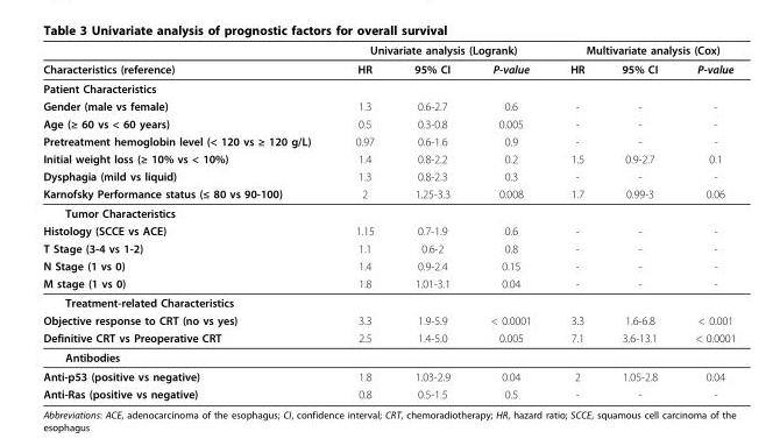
<table><thead><tr><td rowspan="2">Characteristics (reference)</td><td colspan="3">Univariate analysis (Logrank)</td><td colspan="3">Multivariate analysis (Cox)</td></tr><tr><td>HR</td><td>95% CI</td><td>P-value</td><td>HR</td><td>95% CI</td><td>P-value</td></tr></thead><tbody><tr><td colspan="7">Patient Characteristics</td></tr><tr><td>Gender (male vs female)</td><td>1.3</td><td>0.6-2.7</td><td>0.6</td><td>-</td><td>-</td><td>-</td></tr><tr><td>Age (≥ 60 vs &lt; 60 years)</td><td>0.5</td><td>0.3-0.8</td><td>0.005</td><td>-</td><td>-</td><td>-</td></tr><tr><td>Pretreatment hemoglobin level (&lt; 120 vs ≥ 120 g/L)</td><td>0.97</td><td>0.6-1.6</td><td>0.9</td><td>-</td><td>-</td><td>-</td></tr><tr><td>Initial weight loss (≥ 10% vs &lt; 10%)</td><td>1.4</td><td>0.8-2.2</td><td>0.2</td><td>1.5</td><td>0.9-2.7</td><td>0.1</td></tr><tr><td>Dysphagia (mild vs liquid)</td><td>1.3</td><td>0.8-2.3</td><td>0.3</td><td>-</td><td>-</td><td>-</td></tr><tr><td>Karnofsky Performance status (≤ 80 vs 90-100)</td><td>2</td><td>1.25-3.3</td><td>0.008</td><td>1.7</td><td>0.99-3</td><td>0.06</td></tr><tr><td colspan="7">Tumor Characteristics</td></tr><tr><td>Histology (SCCE vs ACE)</td><td>1.15</td><td>0.7-1.9</td><td>0.6</td><td>-</td><td>-</td><td>-</td></tr><tr><td>T Stage (3-4 vs 1-2)</td><td>1.1</td><td>0.6-2</td><td>0.8</td><td>-</td><td>-</td><td>-</td></tr><tr><td>N Stage (1 vs 0)</td><td>1.4</td><td>0.9-2.4</td><td>0.15</td><td>-</td><td>-</td><td>-</td></tr><tr><td>M stage (1 vs 0)</td><td>1.8</td><td>1.01-3.1</td><td>0.04</td><td>-</td><td>-</td><td>-</td></tr><tr><td colspan="7">Treatment-related Characteristics</td></tr><tr><td>Objective response to CRT (no vs yes)</td><td>3.3</td><td>1.9-5.9</td><td>&lt; 0.0001</td><td>3.3</td><td>1.6-6.8</td><td>&lt; 0.001</td></tr><tr><td>Definitive CRT vs Preoperative CRT</td><td>2.5</td><td>1.4-5.0</td><td>0.005</td><td>7.1</td><td>3.6-13.1</td><td>&lt; 0.0001</td></tr><tr><td colspan="7">Antibodies</td></tr><tr><td>Anti-p53 (positive vs negative)</td><td>1.8</td><td>1.03-2.9</td><td>0.04</td><td>2</td><td>1.05-2.8</td><td>0.04</td></tr><tr><td>Anti-Ras (positive vs negative)</td><td>0.8</td><td>0.5-1.5</td><td>0.5</td><td>-</td><td>-</td><td>-</td></tr></tbody></table>